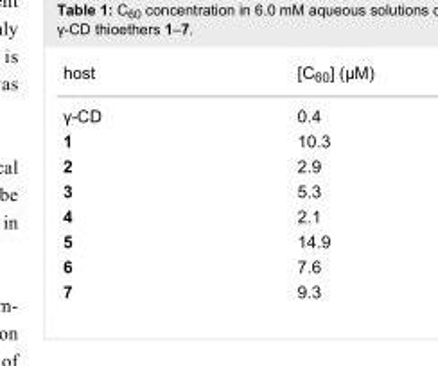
<table><tbody><tr><td>host</td><td>[C<sub>60</sub>] (μM)</td></tr><tr><td>γ-CD</td><td>0.4</td></tr><tr><td>1</td><td>10.3</td></tr><tr><td>2</td><td>2.9</td></tr><tr><td>3</td><td>5.3</td></tr><tr><td>4</td><td>2.1</td></tr><tr><td>5</td><td>14.9</td></tr><tr><td>6</td><td>7.6</td></tr><tr><td>7</td><td>9.3</td></tr></tbody></table>